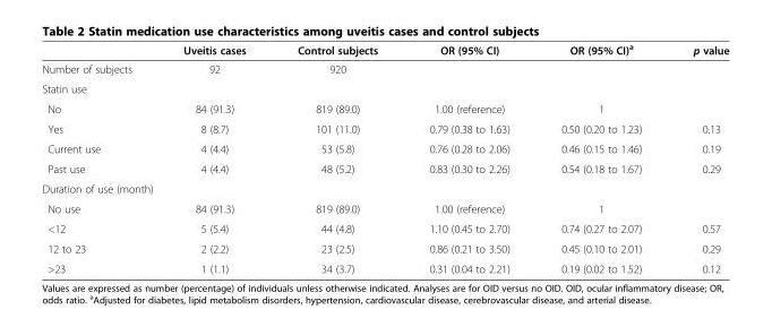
<table><thead><tr><td></td><td>Uveitis cases</td><td>Control subjects</td><td>OR (95% CI)</td><td>OR (95% CI)<sup>a</sup></td><td>p value</td></tr></thead><tbody><tr><td>Number of subjects</td><td>92</td><td>920</td><td></td><td></td><td></td></tr><tr><td colspan="6">Statin use</td></tr><tr><td>No</td><td>84 (91.3)</td><td>819 (89.0)</td><td>1.00 (reference)</td><td>1</td><td></td></tr><tr><td>Yes</td><td>8 (8.7)</td><td>101 (11.0)</td><td>0.79 (0.38 to 1.63)</td><td>0.50 (0.20 to 1.23)</td><td>0.13</td></tr><tr><td>Current use</td><td>4 (4.4)</td><td>53 (5.8)</td><td>0.76 (0.28 to 2.06)</td><td>0.46 (0.15 to 1.46)</td><td>0.19</td></tr><tr><td>Past use</td><td>4 (4.4)</td><td>48 (5.2)</td><td>0.83 (0.30 to 2.26)</td><td>0.54 (0.18 to 1.67)</td><td>0.29</td></tr><tr><td colspan="6">Duration of use (month)</td></tr><tr><td>No use</td><td>84 (91.3)</td><td>819 (89.0)</td><td>1.00 (reference)</td><td>1</td><td></td></tr><tr><td>&lt;12</td><td>5 (5.4)</td><td>44 (4.8)</td><td>1.10 (0.45 to 2.70)</td><td>0.74 (0.27 to 2.07)</td><td>0.57</td></tr><tr><td>12 to 23</td><td>2 (2.2)</td><td>23 (2.5)</td><td>0.86 (0.21 to 3.50)</td><td>0.45 (0.10 to 2.01)</td><td>0.29</td></tr><tr><td>&gt;23</td><td>1 (1.1)</td><td>34 (3.7)</td><td>0.31 (0.04 to 2.21)</td><td>0.19 (0.02 to 1.52)</td><td>0.12</td></tr></tbody></table>